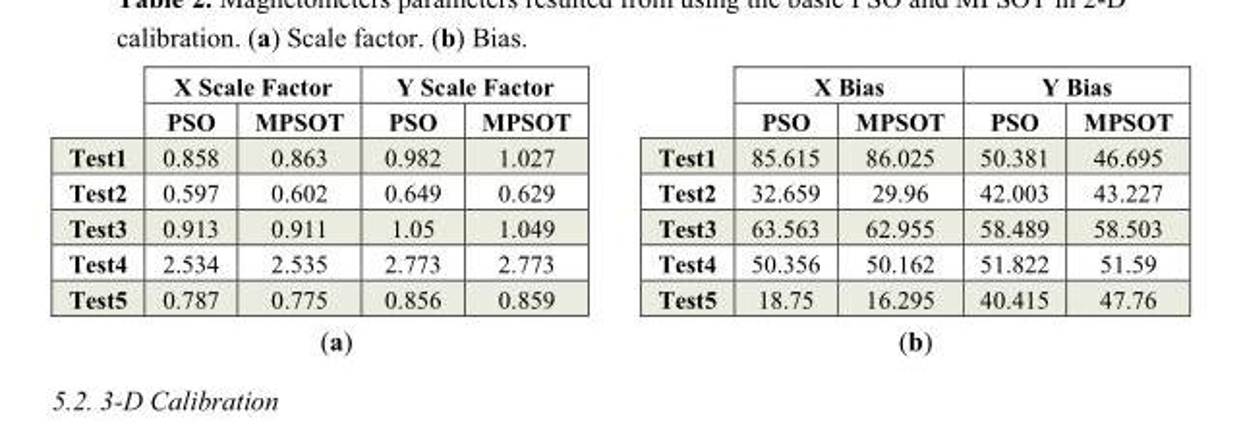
<table><thead><tr><td rowspan="2"></td><td colspan="2">X Scale Factor</td><td colspan="2">Y Scale Factor</td><td rowspan="2"></td><td colspan="2">X Bias</td><td colspan="2">Y Bias</td></tr><tr><td>PSO</td><td>MPSOT</td><td>PSO</td><td>MPSOT</td><td>PSO</td><td>MPSOT</td><td>PSO</td><td>MPSOT</td></tr></thead><tbody><tr><td>Test1</td><td>0.858</td><td>0.863</td><td>0.982</td><td>1.027</td><td>Test1</td><td>85.615</td><td>86.025</td><td>50.381</td><td>46.695</td></tr><tr><td>Test2</td><td>0.597</td><td>0.602</td><td>0.649</td><td>0.629</td><td>Test2</td><td>32.659</td><td>29.96</td><td>42.003</td><td>43.227</td></tr><tr><td>Test3</td><td>0.913</td><td>0.911</td><td>1.05</td><td>1.049</td><td>Test3</td><td>63.563</td><td>62.955</td><td>58.489</td><td>58.503</td></tr><tr><td>Test4</td><td>2.534</td><td>2.535</td><td>2.773</td><td>2.773</td><td>Test4</td><td>50.356</td><td>50.162</td><td>51.822</td><td>51.59</td></tr><tr><td>Test5</td><td>0.787</td><td>0.775</td><td>0.856</td><td>0.859</td><td>Test5</td><td>18.75</td><td>16.295</td><td>40.415</td><td>47.76</td></tr><tr><td colspan="5">(a)</td><td colspan="5">(b)</td></tr></tbody></table>